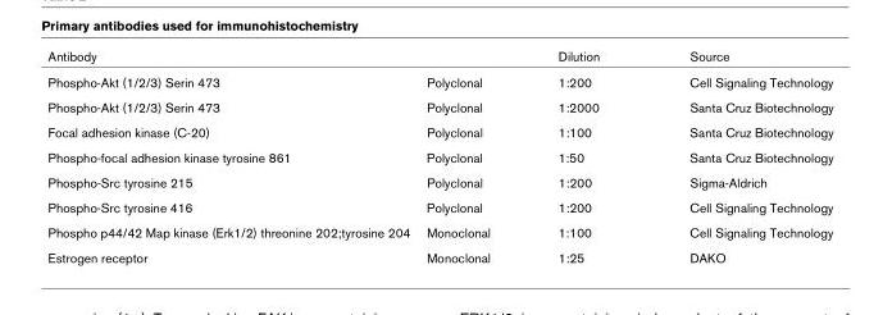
<table><thead><tr><td>Antibody</td><td></td><td>Dilution</td><td>Source</td></tr></thead><tbody><tr><td>Phospho-Akt (1/2/3) Serin 473</td><td>Polyclonal</td><td>1:200</td><td>Cell Signaling Technology</td></tr><tr><td>Phospho-Akt (1/2/3) Serin 473</td><td>Polyclonal</td><td>1:2000</td><td>Santa Cruz Biotechnology</td></tr><tr><td>Focal adhesion kinase (C-20)</td><td>Polyclonal</td><td>1:100</td><td>Santa Cruz Biotechnology</td></tr><tr><td>Phospho-focal adhesion kinase tyrosine 861</td><td>Polyclonal</td><td>1:50</td><td>Santa Cruz Biotechnology</td></tr><tr><td>Phospho-Src tyrosine 215</td><td>Polyclonal</td><td>1:200</td><td>Sigma-Aldrich</td></tr><tr><td>Phospho-Src tyrosine 416</td><td>Polyclonal</td><td>1:200</td><td>Cell Signaling Technology</td></tr><tr><td>Phospho p44/42 Map kinase (Erk1/2) threonine 202;tyrosine 204</td><td>Monoclonal</td><td>1:100</td><td>Cell Signaling Technology</td></tr><tr><td>Estrogen receptor</td><td>Monoclonal</td><td>1:25</td><td>DAKO</td></tr></tbody></table>